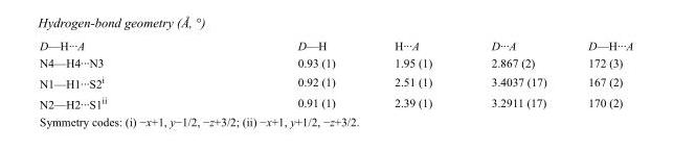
<table><tbody><tr><td>D—H···A</td><td>D—H</td><td>H···A</td><td>D···A</td><td>D—H···A</td></tr><tr><td>N4—H4···N3</td><td>0.93 (1)</td><td>1.95 (1)</td><td>2.867 (2)</td><td>172 (3)</td></tr><tr><td>N1—H1···S2<sup>i</sup></td><td>0.92 (1)</td><td>2.51 (1)</td><td>3.4037 (17)</td><td>167 (2)</td></tr><tr><td>N2—H2···S1<sup>ii</sup></td><td>0.91 (1)</td><td>2.39 (1)</td><td>3.2911 (17)</td><td>170 (2)</td></tr></tbody></table>